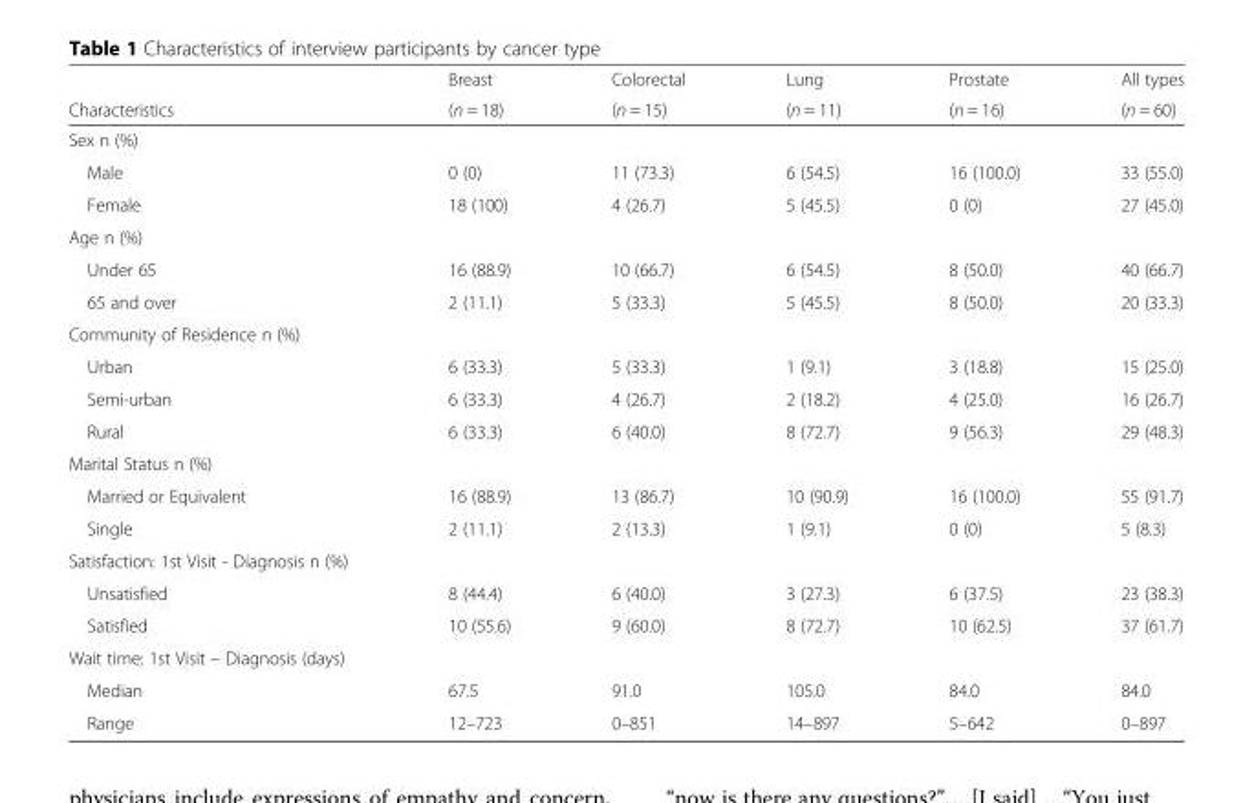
<table><thead><tr><td rowspan="2">Characteristics</td><td rowspan="2">Breast (n = 18)</td><td rowspan="2">Colorectal (n = 15)</td><td rowspan="2">Lung (n = 11)</td><td rowspan="2">Prostate (n = 16)</td><td rowspan="2">All types (n = 60)</td></tr><tr></tr></thead><tbody><tr><td colspan="6">Sex n (%)</td></tr><tr><td>Male</td><td>0 (0)</td><td>11 (73.3)</td><td>6 (54.5)</td><td>16 (100.0)</td><td>33 (55.0)</td></tr><tr><td>Female</td><td>18 (100)</td><td>4 (26.7)</td><td>5 (45.5)</td><td>0 (0)</td><td>27 (45.0)</td></tr><tr><td colspan="6">Age n (%)</td></tr><tr><td>Under 65</td><td>16 (88.9)</td><td>10 (66.7)</td><td>6 (54.5)</td><td>8 (50.0)</td><td>40 (66.7)</td></tr><tr><td>65 and over</td><td>2 (11.1)</td><td>5 (33.3)</td><td>5 (45.5)</td><td>8 (50.0)</td><td>20 (33.3)</td></tr><tr><td colspan="6">Community of Residence n (%)</td></tr><tr><td>Urban</td><td>6 (33.3)</td><td>5 (33.3)</td><td>1 (9.1)</td><td>3 (18.8)</td><td>15 (25.0)</td></tr><tr><td>Semi-urban</td><td>6 (33.3)</td><td>4 (26.7)</td><td>2 (18.2)</td><td>4 (25.0)</td><td>16 (26.7)</td></tr><tr><td>Rural</td><td>6 (33.3)</td><td>6 (40.0)</td><td>8 (72.7)</td><td>9 (56.3)</td><td>29 (48.3)</td></tr><tr><td colspan="6">Marital Status n (%)</td></tr><tr><td>Married or Equivalent</td><td>16 (88.9)</td><td>13 (86.7)</td><td>10 (90.9)</td><td>16 (100.0)</td><td>55 (91.7)</td></tr><tr><td>Single</td><td>2 (11.1)</td><td>2 (13.3)</td><td>1 (9.1)</td><td>0 (0)</td><td>5 (8.3)</td></tr><tr><td colspan="6">Satisfaction: 1st Visit - Diagnosis n (%)</td></tr><tr><td>Unsatisfied</td><td>8 (44.4)</td><td>6 (40.0)</td><td>3 (27.3)</td><td>6 (37.5)</td><td>23 (38.3)</td></tr><tr><td>Satisfied</td><td>10 (55.6)</td><td>9 (60.0)</td><td>8 (72.7)</td><td>10 (62.5)</td><td>37 (61.7)</td></tr><tr><td colspan="6">Wait time: 1st Visit – Diagnosis (days)</td></tr><tr><td>Median</td><td>67.5</td><td>91.0</td><td>105.0</td><td>84.0</td><td>84.0</td></tr><tr><td>Range</td><td>12–723</td><td>0–851</td><td>14–897</td><td>5–642</td><td>0–897</td></tr></tbody></table>